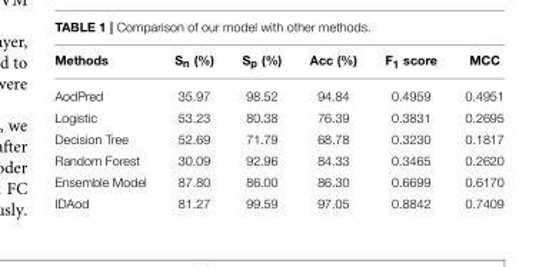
<table><thead><tr><td>Methods</td><td>S<sub>n</sub> (%)</td><td>S<sub>p</sub> (%)</td><td>Acc (%)</td><td>F<sub>1</sub> score</td><td>MCC</td></tr></thead><tbody><tr><td>AodPred</td><td>35.97</td><td>98.52</td><td>94.84</td><td>0.4959</td><td>0.4951</td></tr><tr><td>Logistic</td><td>53.23</td><td>80.38</td><td>76.39</td><td>0.3831</td><td>0.2695</td></tr><tr><td>Decision Tree</td><td>52.69</td><td>71.79</td><td>68.78</td><td>0.3230</td><td>0.1817</td></tr><tr><td>Random Forest</td><td>30.09</td><td>92.96</td><td>84.33</td><td>0.3465</td><td>0.2620</td></tr><tr><td>Ensemble Model</td><td>87.80</td><td>86.00</td><td>86.30</td><td>0.6699</td><td>0.6170</td></tr><tr><td>IDAod</td><td>81.27</td><td>99.59</td><td>97.05</td><td>0.8842</td><td>0.7409</td></tr></tbody></table>